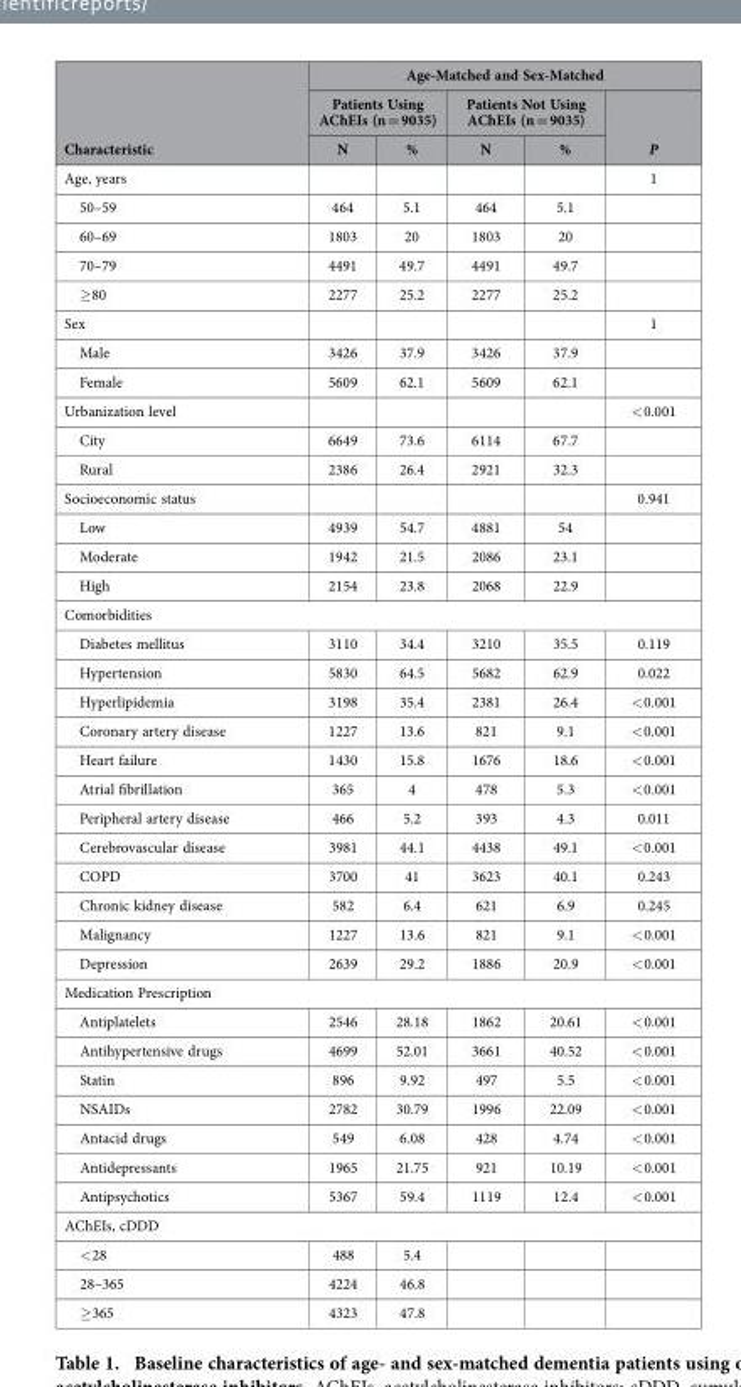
<table><thead><tr><td rowspan="3">Characteristic</td><td colspan="5">Age-Matched and Sex-Matched</td></tr><tr><td colspan="2">Patients Using AChEIs (n = 9035)</td><td colspan="2">Patients Not Using AChEIs (n = 9035)</td><td rowspan="2">P</td></tr><tr><td>N</td><td>%</td><td>N</td><td>%</td></tr></thead><tbody><tr><td>Age, years</td><td></td><td></td><td></td><td></td><td>1</td></tr><tr><td>50–59</td><td>464</td><td>5.1</td><td>464</td><td>5.1</td><td></td></tr><tr><td>60–69</td><td>1803</td><td>20</td><td>1803</td><td>20</td><td></td></tr><tr><td>70–79</td><td>4491</td><td>49.7</td><td>4491</td><td>49.7</td><td></td></tr><tr><td>≥ 80</td><td>2277</td><td>25.2</td><td>2277</td><td>25.2</td><td></td></tr><tr><td>Sex</td><td></td><td></td><td></td><td></td><td>1</td></tr><tr><td>Male</td><td>3426</td><td>37.9</td><td>3426</td><td>37.9</td><td></td></tr><tr><td>Female</td><td>5609</td><td>62.1</td><td>5609</td><td>62.1</td><td></td></tr><tr><td>Urbanization level</td><td></td><td></td><td></td><td></td><td>&lt; 0.001</td></tr><tr><td>City</td><td>6649</td><td>73.6</td><td>6114</td><td>67.7</td><td></td></tr><tr><td>Rural</td><td>2386</td><td>26.4</td><td>2921</td><td>32.3</td><td></td></tr><tr><td>Socioeconomic status</td><td></td><td></td><td></td><td></td><td>0.941</td></tr><tr><td>Low</td><td>4939</td><td>54.7</td><td>4881</td><td>54</td><td></td></tr><tr><td>Moderate</td><td>1942</td><td>21.5</td><td>2086</td><td>23.1</td><td></td></tr><tr><td>High</td><td>2154</td><td>23.8</td><td>2068</td><td>22.9</td><td></td></tr><tr><td colspan="6">Comorbidities</td></tr><tr><td>Diabetes mellitus</td><td>3110</td><td>34.4</td><td>3210</td><td>35.5</td><td>0.119</td></tr><tr><td>Hypertension</td><td>5830</td><td>64.5</td><td>5682</td><td>62.9</td><td>0.022</td></tr><tr><td>Hyperlipidemia</td><td>3198</td><td>35.4</td><td>2381</td><td>26.4</td><td>&lt; 0.001</td></tr><tr><td>Coronary artery disease</td><td>1227</td><td>13.6</td><td>821</td><td>9.1</td><td>&lt; 0.001</td></tr><tr><td>Heart failure</td><td>1430</td><td>15.8</td><td>1676</td><td>18.6</td><td>&lt; 0.001</td></tr><tr><td>Atrial fibrillation</td><td>365</td><td>4</td><td>478</td><td>5.3</td><td>&lt; 0.001</td></tr><tr><td>Peripheral artery disease</td><td>466</td><td>5.2</td><td>393</td><td>4.3</td><td>0.011</td></tr><tr><td>Cerebrovascular disease</td><td>3981</td><td>44.1</td><td>4438</td><td>49.1</td><td>&lt; 0.001</td></tr><tr><td>COPD</td><td>3700</td><td>41</td><td>3623</td><td>40.1</td><td>0.243</td></tr><tr><td>Chronic kidney disease</td><td>582</td><td>6.4</td><td>621</td><td>6.9</td><td>0.245</td></tr><tr><td>Malignancy</td><td>1227</td><td>13.6</td><td>821</td><td>9.1</td><td>&lt; 0.001</td></tr><tr><td>Depression</td><td>2639</td><td>29.2</td><td>1886</td><td>20.9</td><td>&lt; 0.001</td></tr><tr><td colspan="6">Medication Prescription</td></tr><tr><td>Antiplatelets</td><td>2546</td><td>28.18</td><td>1862</td><td>20.61</td><td>&lt; 0.001</td></tr><tr><td>Antihypertensive drugs</td><td>4699</td><td>52.01</td><td>3661</td><td>40.52</td><td>&lt; 0.001</td></tr><tr><td>Statin</td><td>896</td><td>9.92</td><td>497</td><td>5.5</td><td>&lt; 0.001</td></tr><tr><td>NSAIDs</td><td>2782</td><td>30.79</td><td>1996</td><td>22.09</td><td>&lt; 0.001</td></tr><tr><td>Antacid drugs</td><td>549</td><td>6.08</td><td>428</td><td>4.74</td><td>&lt; 0.001</td></tr><tr><td>Antidepressants</td><td>1965</td><td>21.75</td><td>921</td><td>10.19</td><td>&lt; 0.001</td></tr><tr><td>Antipsychotics</td><td>5367</td><td>59.4</td><td>1119</td><td>12.4</td><td>&lt; 0.001</td></tr><tr><td colspan="6">AChEIs, cDDD</td></tr><tr><td>&lt; 28</td><td>488</td><td>5.4</td><td></td><td></td><td></td></tr><tr><td>28–365</td><td>4224</td><td>46.8</td><td></td><td></td><td></td></tr><tr><td>≥ 365</td><td>4323</td><td>47.8</td><td></td><td></td><td></td></tr></tbody></table>